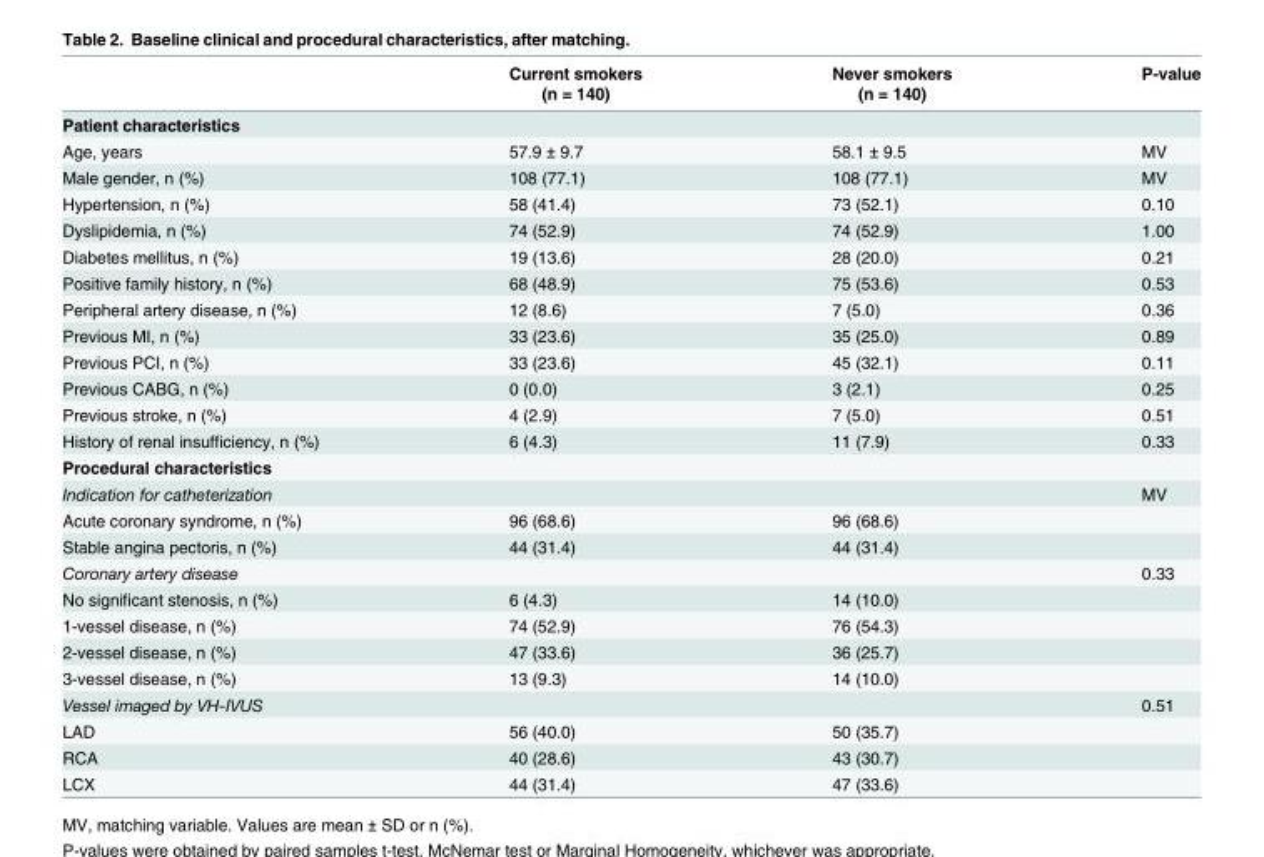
<table><thead><tr><td rowspan="2"></td><td rowspan="2">Current smokers (n = 140)</td><td rowspan="2">Never smokers (n = 140)</td><td rowspan="2">P-value</td></tr><tr></tr></thead><tbody><tr><td colspan="4">Patient characteristics</td></tr><tr><td>Age, years</td><td>57.9 ± 9.7</td><td>58.1 ± 9.5</td><td>MV</td></tr><tr><td>Male gender, n (%)</td><td>108 (77.1)</td><td>108 (77.1)</td><td>MV</td></tr><tr><td>Hypertension, n (%)</td><td>58 (41.4)</td><td>73 (52.1)</td><td>0.10</td></tr><tr><td>Dyslipidemia, n (%)</td><td>74 (52.9)</td><td>74 (52.9)</td><td>1.00</td></tr><tr><td>Diabetes mellitus, n (%)</td><td>19 (13.6)</td><td>28 (20.0)</td><td>0.21</td></tr><tr><td>Positive family history, n (%)</td><td>68 (48.9)</td><td>75 (53.6)</td><td>0.53</td></tr><tr><td>Peripheral artery disease, n (%)</td><td>12 (8.6)</td><td>7 (5.0)</td><td>0.36</td></tr><tr><td>Previous MI, n (%)</td><td>33 (23.6)</td><td>35 (25.0)</td><td>0.89</td></tr><tr><td>Previous PCI, n (%)</td><td>33 (23.6)</td><td>45 (32.1)</td><td>0.11</td></tr><tr><td>Previous CABG, n (%)</td><td>0 (0.0)</td><td>3 (2.1)</td><td>0.25</td></tr><tr><td>Previous stroke, n (%)</td><td>4 (2.9)</td><td>7 (5.0)</td><td>0.51</td></tr><tr><td>History of renal insufficiency, n (%)</td><td>6 (4.3)</td><td>11 (7.9)</td><td>0.33</td></tr><tr><td colspan="4">Procedural characteristics</td></tr><tr><td>Indication for catheterization</td><td></td><td></td><td>MV</td></tr><tr><td>Acute coronary syndrome, n (%)</td><td>96 (68.6)</td><td>96 (68.6)</td><td></td></tr><tr><td>Stable angina pectoris, n (%)</td><td>44 (31.4)</td><td>44 (31.4)</td><td></td></tr><tr><td>Coronary artery disease</td><td></td><td></td><td>0.33</td></tr><tr><td>No significant stenosis, n (%)</td><td>6 (4.3)</td><td>14 (10.0)</td><td></td></tr><tr><td>1-vessel disease, n (%)</td><td>74 (52.9)</td><td>76 (54.3)</td><td></td></tr><tr><td>2-vessel disease, n (%)</td><td>47 (33.6)</td><td>36 (25.7)</td><td></td></tr><tr><td>3-vessel disease, n (%)</td><td>13 (9.3)</td><td>14 (10.0)</td><td></td></tr><tr><td>Vessel imaged by VH-IVUS</td><td></td><td></td><td>0.51</td></tr><tr><td>LAD</td><td>56 (40.0)</td><td>50 (35.7)</td><td></td></tr><tr><td>RCA</td><td>40 (28.6)</td><td>43 (30.7)</td><td></td></tr><tr><td>LCX</td><td>44 (31.4)</td><td>47 (33.6)</td><td></td></tr></tbody></table>